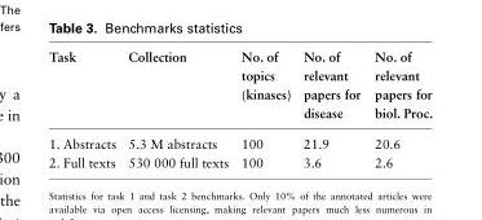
<table><thead><tr><td>Task</td><td>Collection</td><td>No. of topics (kinases)</td><td>No. of relevant papers for disease</td><td>No. of relevant papers for biol. Proc.</td></tr></thead><tbody><tr><td>1. Abstracts</td><td>5.3 M abstracts</td><td>100</td><td>21.9</td><td>20.6</td></tr><tr><td>2. Full texts</td><td>530 000 full texts</td><td>100</td><td>3.6</td><td>2.6</td></tr></tbody></table>